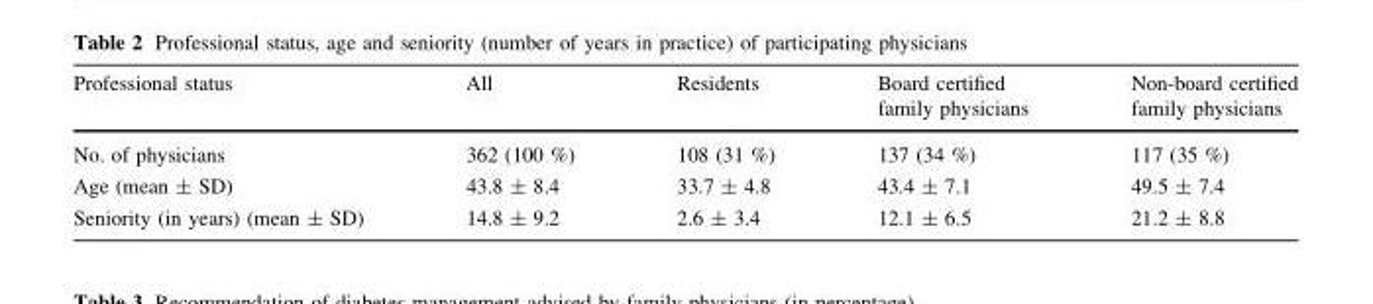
<table><thead><tr><td>Professional status</td><td>All</td><td>Residents</td><td>Board certified family physicians</td><td>Non-board certified family physicians</td></tr></thead><tbody><tr><td>No. of physicians</td><td>362 (100 %)</td><td>108 (31 %)</td><td>137 (34 %)</td><td>117 (35 %)</td></tr><tr><td>Age (mean ± SD)</td><td>43.8 ± 8.4</td><td>33.7 ± 4.8</td><td>43.4 ± 7.1</td><td>49.5 ± 7.4</td></tr><tr><td>Seniority (in years) (mean ± SD)</td><td>14.8 ± 9.2</td><td>2.6 ± 3.4</td><td>12.1 ± 6.5</td><td>21.2 ± 8.8</td></tr></tbody></table>